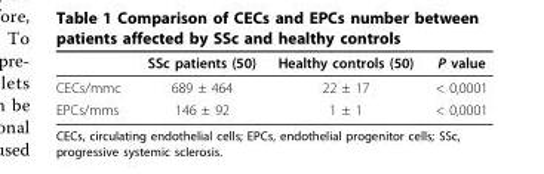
<table><thead><tr><td></td><td>SSc patients (50)</td><td>Healthy controls (50)</td><td>P value</td></tr></thead><tbody><tr><td>CECs/mmc</td><td>689 ± 464</td><td>22 ± 17</td><td>&lt; 0,0001</td></tr><tr><td>EPCs/mms</td><td>146 ± 92</td><td>1 ± 1</td><td>&lt; 0,0001</td></tr></tbody></table>